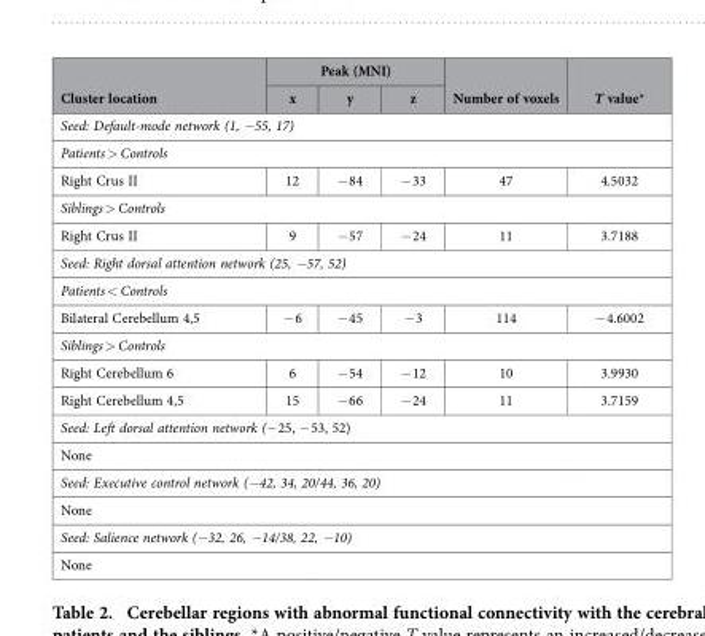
<table><thead><tr><td rowspan="2">Cluster location</td><td colspan="3">Peak (MNI)</td><td rowspan="2">Number of voxels</td><td rowspan="2">T value*</td></tr><tr><td>x</td><td>y</td><td>z</td></tr></thead><tbody><tr><td colspan="6">Seed: Default-mode network (1, −55, 17)</td></tr><tr><td colspan="6">Patients &gt; Controls</td></tr><tr><td>Right Crus II</td><td>12</td><td>− 84</td><td>− 33</td><td>47</td><td>4.5032</td></tr><tr><td colspan="6">Siblings &gt; Controls</td></tr><tr><td>Right Crus II</td><td>9</td><td>− 57</td><td>− 24</td><td>11</td><td>3.7188</td></tr><tr><td colspan="6">Seed: Right dorsal attention network (25, −57, 52)</td></tr><tr><td colspan="6">Patients &lt; Controls</td></tr><tr><td>Bilateral Cerebellum 4,5</td><td>− 6</td><td>− 45</td><td>− 3</td><td>114</td><td>− 4.6002</td></tr><tr><td colspan="6">Siblings &gt; Controls</td></tr><tr><td>Right Cerebellum 6</td><td>6</td><td>− 54</td><td>− 12</td><td>10</td><td>3.9930</td></tr><tr><td>Right Cerebellum 4,5</td><td>15</td><td>− 66</td><td>− 24</td><td>11</td><td>3.7159</td></tr><tr><td colspan="6">Seed: Left dorsal attention network (− 25, − 53, 52)</td></tr><tr><td colspan="6">None</td></tr><tr><td colspan="6">Seed: Executive control network (−42, 34, 20/44, 36, 20)</td></tr><tr><td colspan="6">None</td></tr><tr><td colspan="6">Seed: Salience network (−32, 26, −14/38, 22, −10)</td></tr><tr><td>None</td><td></td><td></td><td></td><td></td><td></td></tr></tbody></table>